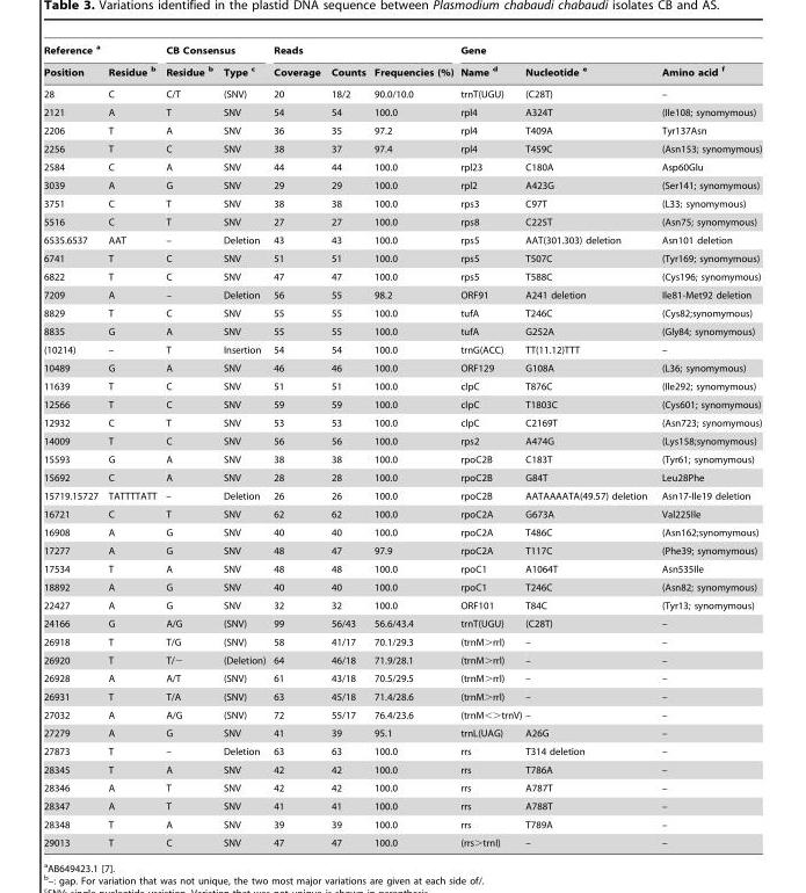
<table><thead><tr><td colspan="2">Reference a</td><td colspan="2">CB Consensus</td><td colspan="3">Reads</td><td colspan="3">Gene</td></tr><tr><td>Position</td><td>Residue b</td><td>Residue b</td><td>Type c</td><td>Coverage</td><td>Counts</td><td>Frequencies (%)</td><td>Name d</td><td>Nucleotide e</td><td>Amino acid f</td></tr></thead><tbody><tr><td>28</td><td>C</td><td>C/T</td><td>(SNV)</td><td>20</td><td>18/2</td><td>90.0/10.0</td><td>trnT(UGU)</td><td>(C28T)</td><td>–</td></tr><tr><td>2121</td><td>A</td><td>T</td><td>SNV</td><td>54</td><td>54</td><td>100.0</td><td>rpl4</td><td>A324T</td><td>(Ile108; synomymous)</td></tr><tr><td>2206</td><td>T</td><td>A</td><td>SNV</td><td>36</td><td>35</td><td>97.2</td><td>rpl4</td><td>T409A</td><td>Tyr137Asn</td></tr><tr><td>2256</td><td>T</td><td>C</td><td>SNV</td><td>38</td><td>37</td><td>97.4</td><td>rpl4</td><td>T459C</td><td>(Asn153; synomymous)</td></tr><tr><td>2584</td><td>C</td><td>A</td><td>SNV</td><td>44</td><td>44</td><td>100.0</td><td>rpl23</td><td>C180A</td><td>Asp60Glu</td></tr><tr><td>3039</td><td>A</td><td>G</td><td>SNV</td><td>29</td><td>29</td><td>100.0</td><td>rpl2</td><td>A423G</td><td>(Ser141; synomymous)</td></tr><tr><td>3751</td><td>C</td><td>T</td><td>SNV</td><td>38</td><td>38</td><td>100.0</td><td>rps3</td><td>C97T</td><td>(L33; synomymous)</td></tr><tr><td>5516</td><td>C</td><td>T</td><td>SNV</td><td>27</td><td>27</td><td>100.0</td><td>rps8</td><td>C225T</td><td>(Asn75; synomymous)</td></tr><tr><td>6535.6537</td><td>AAT</td><td>–</td><td>Deletion</td><td>43</td><td>43</td><td>100.0</td><td>rps5</td><td>AAT(301.303) deletion</td><td>Asn101 deletion</td></tr><tr><td>6741</td><td>T</td><td>C</td><td>SNV</td><td>51</td><td>51</td><td>100.0</td><td>rps5</td><td>T507C</td><td>(Tyr169; synomymous)</td></tr><tr><td>6822</td><td>T</td><td>C</td><td>SNV</td><td>47</td><td>47</td><td>100.0</td><td>rps5</td><td>T588C</td><td>(Cys196; synomymous)</td></tr><tr><td>7209</td><td>A</td><td>–</td><td>Deletion</td><td>56</td><td>55</td><td>98.2</td><td>ORF91</td><td>A241 deletion</td><td>Ile81-Met92 deletion</td></tr><tr><td>8829</td><td>T</td><td>C</td><td>SNV</td><td>55</td><td>55</td><td>100.0</td><td>tufA</td><td>T246C</td><td>(Cys82;synomymous)</td></tr><tr><td>8835</td><td>G</td><td>A</td><td>SNV</td><td>55</td><td>55</td><td>100.0</td><td>tufA</td><td>G252A</td><td>(Gly84; synomymous)</td></tr><tr><td>(10214)</td><td>–</td><td>T</td><td>Insertion</td><td>54</td><td>54</td><td>100.0</td><td>trnG(ACC)</td><td>TT(11.12)TTT</td><td>–</td></tr><tr><td>10489</td><td>G</td><td>A</td><td>SNV</td><td>46</td><td>46</td><td>100.0</td><td>ORF129</td><td>G108A</td><td>(L36; synomymous)</td></tr><tr><td>11639</td><td>T</td><td>C</td><td>SNV</td><td>51</td><td>51</td><td>100.0</td><td>clpC</td><td>T876C</td><td>(Ile292; synomymous)</td></tr><tr><td>12566</td><td>T</td><td>C</td><td>SNV</td><td>59</td><td>59</td><td>100.0</td><td>clpC</td><td>T1803C</td><td>(Cys601; synomymous)</td></tr><tr><td>12932</td><td>C</td><td>T</td><td>SNV</td><td>53</td><td>53</td><td>100.0</td><td>clpC</td><td>C2169T</td><td>(Asn723; synomymous)</td></tr><tr><td>14009</td><td>T</td><td>C</td><td>SNV</td><td>56</td><td>56</td><td>100.0</td><td>rps2</td><td>A474G</td><td>(Lys158;synomymous)</td></tr><tr><td>15593</td><td>G</td><td>A</td><td>SNV</td><td>38</td><td>38</td><td>100.0</td><td>rpoC2B</td><td>C183T</td><td>(Tyr61; synomymous)</td></tr><tr><td>15692</td><td>C</td><td>A</td><td>SNV</td><td>28</td><td>28</td><td>100.0</td><td>rpoC2B</td><td>G84T</td><td>Leu28Phe</td></tr><tr><td>15719.15727</td><td>TATTTTATT</td><td>–</td><td>Deletion</td><td>26</td><td>26</td><td>100.0</td><td>rpoC2B</td><td>AATAAAATA(49.57) deletion</td><td>Asn17-Ile19 deletion</td></tr><tr><td>16721</td><td>C</td><td>T</td><td>SNV</td><td>62</td><td>62</td><td>100.0</td><td>rpoC2A</td><td>G673A</td><td>Val225Ile</td></tr><tr><td>16908</td><td>A</td><td>G</td><td>SNV</td><td>40</td><td>40</td><td>100.0</td><td>rpoC2A</td><td>T486C</td><td>(Asn162;synomymous)</td></tr><tr><td>17277</td><td>A</td><td>G</td><td>SNV</td><td>48</td><td>47</td><td>97.9</td><td>rpoC2A</td><td>T117C</td><td>(Phe39; synomymous)</td></tr><tr><td>17534</td><td>T</td><td>A</td><td>SNV</td><td>48</td><td>48</td><td>100.0</td><td>rpoC1</td><td>A1064T</td><td>Asn535Ile</td></tr><tr><td>18892</td><td>A</td><td>G</td><td>SNV</td><td>40</td><td>40</td><td>100.0</td><td>rpoC1</td><td>T246C</td><td>(Asn82; synomymous)</td></tr><tr><td>22427</td><td>A</td><td>G</td><td>SNV</td><td>32</td><td>32</td><td>100.0</td><td>ORF101</td><td>T84C</td><td>(Tyr13; synomymous)</td></tr><tr><td>24166</td><td>G</td><td>A/G</td><td>(SNV)</td><td>99</td><td>56/43</td><td>56.6/43.4</td><td>trnT(UGU)</td><td>(C28T)</td><td>–</td></tr><tr><td>26918</td><td>T</td><td>T/G</td><td>(SNV)</td><td>58</td><td>41/17</td><td>70.1/29.3</td><td>(trnM&gt;rrl)</td><td>–</td><td>–</td></tr><tr><td>26920</td><td>T</td><td>T/−</td><td>(Deletion)</td><td>64</td><td>46/18</td><td>71.9/28.1</td><td>(trnM&gt;rrl)</td><td>–</td><td>–</td></tr><tr><td>26928</td><td>A</td><td>A/T</td><td>(SNV)</td><td>61</td><td>43/18</td><td>70.5/29.5</td><td>(trnM&gt;rrl)</td><td>–</td><td>–</td></tr><tr><td>26931</td><td>T</td><td>T/A</td><td>(SNV)</td><td>63</td><td>45/18</td><td>71.4/28.6</td><td>(trnM&gt;rrl)</td><td>–</td><td>–</td></tr><tr><td>27032</td><td>A</td><td>A/G</td><td>(SNV)</td><td>72</td><td>55/17</td><td>76.4/23.6</td><td>(trnM&lt;&gt;trnV)</td><td>–</td><td>–</td></tr><tr><td>27279</td><td>A</td><td>G</td><td>SNV</td><td>41</td><td>39</td><td>95.1</td><td>trnL(UAG)</td><td>A26G</td><td>–</td></tr><tr><td>27873</td><td>T</td><td>–</td><td>Deletion</td><td>63</td><td>63</td><td>100.0</td><td>rrs</td><td>T314 deletion</td><td>–</td></tr><tr><td>28345</td><td>T</td><td>A</td><td>SNV</td><td>42</td><td>42</td><td>100.0</td><td>rrs</td><td>T786A</td><td>–</td></tr><tr><td>28346</td><td>A</td><td>T</td><td>SNV</td><td>42</td><td>42</td><td>100.0</td><td>rrs</td><td>A787T</td><td>–</td></tr><tr><td>28347</td><td>A</td><td>T</td><td>SNV</td><td>41</td><td>41</td><td>100.0</td><td>rrs</td><td>A788T</td><td>–</td></tr><tr><td>28348</td><td>T</td><td>A</td><td>SNV</td><td>39</td><td>39</td><td>100.0</td><td>rrs</td><td>T789A</td><td>–</td></tr><tr><td>29013</td><td>T</td><td>C</td><td>SNV</td><td>47</td><td>47</td><td>100.0</td><td>(rrs&gt;trnI)</td><td>–</td><td>–</td></tr></tbody></table>